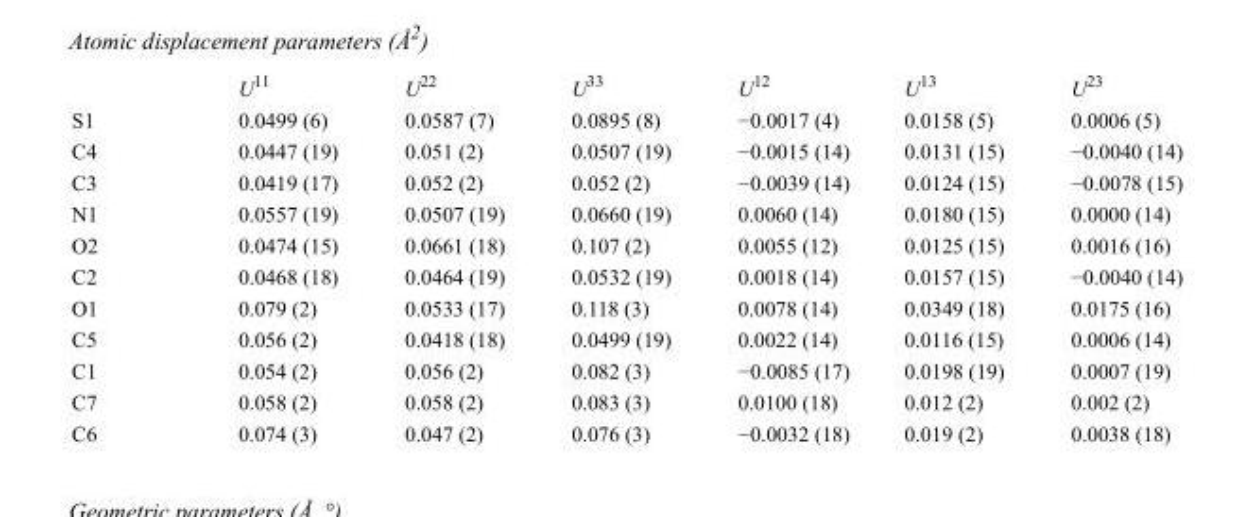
<table><thead><tr><td></td><td>U<sup>11</sup></td><td>U<sup>22</sup></td><td>U<sup>33</sup></td><td>U<sup>12</sup></td><td>U<sup>13</sup></td><td>U<sup>23</sup></td></tr></thead><tbody><tr><td>S1</td><td>0.0499 (6)</td><td>0.0587 (7)</td><td>0.0895 (8)</td><td>−0.0017 (4)</td><td>0.0158 (5)</td><td>0.0006 (5)</td></tr><tr><td>C4</td><td>0.0447 (19)</td><td>0.051 (2)</td><td>0.0507 (19)</td><td>−0.0015 (14)</td><td>0.0131 (15)</td><td>−0.0040 (14)</td></tr><tr><td>C3</td><td>0.0419 (17)</td><td>0.052 (2)</td><td>0.052 (2)</td><td>−0.0039 (14)</td><td>0.0124 (15)</td><td>−0.0078 (15)</td></tr><tr><td>N1</td><td>0.0557 (19)</td><td>0.0507 (19)</td><td>0.0660 (19)</td><td>0.0060 (14)</td><td>0.0180 (15)</td><td>0.0000 (14)</td></tr><tr><td>O2</td><td>0.0474 (15)</td><td>0.0661 (18)</td><td>0.107 (2)</td><td>0.0055 (12)</td><td>0.0125 (15)</td><td>0.0016 (16)</td></tr><tr><td>C2</td><td>0.0468 (18)</td><td>0.0464 (19)</td><td>0.0532 (19)</td><td>0.0018 (14)</td><td>0.0157 (15)</td><td>−0.0040 (14)</td></tr><tr><td>O1</td><td>0.079 (2)</td><td>0.0533 (17)</td><td>0.118 (3)</td><td>0.0078 (14)</td><td>0.0349 (18)</td><td>0.0175 (16)</td></tr><tr><td>C5</td><td>0.056 (2)</td><td>0.0418 (18)</td><td>0.0499 (19)</td><td>0.0022 (14)</td><td>0.0116 (15)</td><td>0.0006 (14)</td></tr><tr><td>C1</td><td>0.054 (2)</td><td>0.056 (2)</td><td>0.082 (3)</td><td>−0.0085 (17)</td><td>0.0198 (19)</td><td>0.0007 (19)</td></tr><tr><td>C7</td><td>0.058 (2)</td><td>0.058 (2)</td><td>0.083 (3)</td><td>0.0100 (18)</td><td>0.012 (2)</td><td>0.002 (2)</td></tr><tr><td>C6</td><td>0.074 (3)</td><td>0.047 (2)</td><td>0.076 (3)</td><td>−0.0032 (18)</td><td>0.019 (2)</td><td>0.0038 (18)</td></tr></tbody></table>